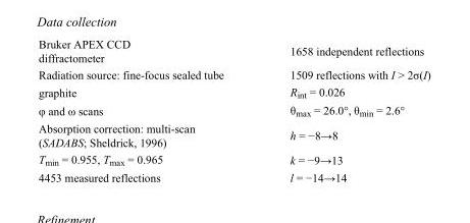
<table><tbody><tr><td>Bruker APEX CCD diffractometer</td><td>1658 independent reflections</td></tr><tr><td>Radiation source: fine-focus sealed tube</td><td>1509 reflections with I &gt; 2σ(I)</td></tr><tr><td>graphite</td><td>R<sub>int</sub> = 0.026</td></tr><tr><td>φ and ω scans</td><td>θ<sub>max</sub> = 26.0°, θ<sub>min</sub> = 2.6°</td></tr><tr><td>Absorption correction: multi-scan (SADABS; Sheldrick, 1996)</td><td>h = −8→8</td></tr><tr><td>T<sub>min</sub> = 0.955, T<sub>max</sub> = 0.965</td><td>k = −9→13</td></tr><tr><td>4453 measured reflections</td><td>l = −14→14</td></tr></tbody></table>